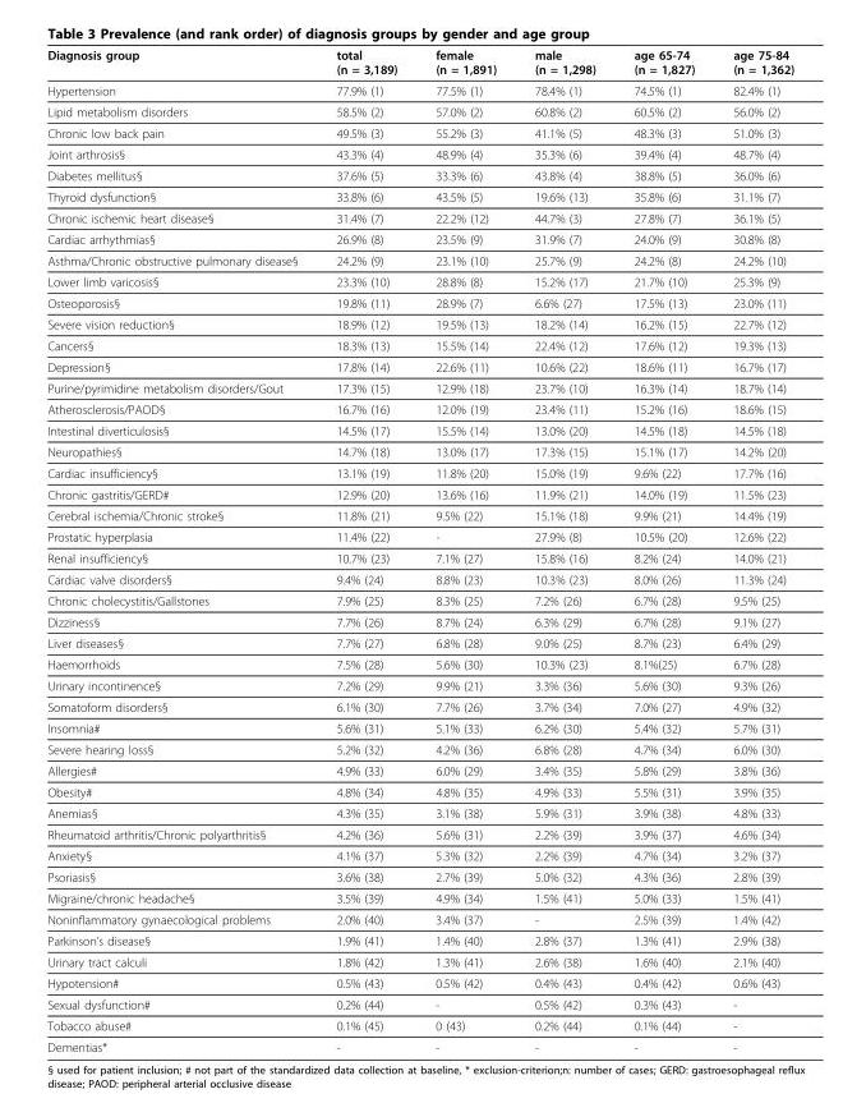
<table><thead><tr><td>Diagnosis group</td><td>total (n = 3,189)</td><td>female (n = 1,891)</td><td>male (n = 1,298)</td><td>age 65-74 (n = 1,827)</td><td>age 75-84 (n = 1,362)</td></tr></thead><tbody><tr><td>Hypertension</td><td>77.9% (1)</td><td>77.5% (1)</td><td>78.4% (1)</td><td>74.5% (1)</td><td>82.4% (1)</td></tr><tr><td>Lipid metabolism disorders</td><td>58.5% (2)</td><td>57.0% (2)</td><td>60.8% (2)</td><td>60.5% (2)</td><td>56.0% (2)</td></tr><tr><td>Chronic low back pain</td><td>49.5% (3)</td><td>55.2% (3)</td><td>41.1% (5)</td><td>48.3% (3)</td><td>51.0% (3)</td></tr><tr><td>Joint arthrosis§</td><td>43.3% (4)</td><td>48.9% (4)</td><td>35.3% (6)</td><td>39.4% (4)</td><td>48.7% (4)</td></tr><tr><td>Diabetes mellitus§</td><td>37.6% (5)</td><td>33.3% (6)</td><td>43.8% (4)</td><td>38.8% (5)</td><td>36.0% (6)</td></tr><tr><td>Thyroid dysfunction§</td><td>33.8% (6)</td><td>43.5% (5)</td><td>19.6% (13)</td><td>35.8% (6)</td><td>31.1% (7)</td></tr><tr><td>Chronic ischemic heart disease§</td><td>31.4% (7)</td><td>22.2% (12)</td><td>44.7% (3)</td><td>27.8% (7)</td><td>36.1% (5)</td></tr><tr><td>Cardiac arrhythmias§</td><td>26.9% (8)</td><td>23.5% (9)</td><td>31.9% (7)</td><td>24.0% (9)</td><td>30.8% (8)</td></tr><tr><td>Asthma/Chronic obstructive pulmonary disease§</td><td>24.2% (9)</td><td>23.1% (10)</td><td>25.7% (9)</td><td>24.2% (8)</td><td>24.2% (10)</td></tr><tr><td>Lower limb varicosis§</td><td>23.3% (10)</td><td>28.8% (8)</td><td>15.2% (17)</td><td>21.7% (10)</td><td>25.3% (9)</td></tr><tr><td>Osteoporosis§</td><td>19.8% (11)</td><td>28.9% (7)</td><td>6.6% (27)</td><td>17.5% (13)</td><td>23.0% (11)</td></tr><tr><td>Severe vision reduction§</td><td>18.9% (12)</td><td>19.5% (13)</td><td>18.2% (14)</td><td>16.2% (15)</td><td>22.7% (12)</td></tr><tr><td>Cancers§</td><td>18.3% (13)</td><td>15.5% (14)</td><td>22.4% (12)</td><td>17.6% (12)</td><td>19.3% (13)</td></tr><tr><td>Depression§</td><td>17.8% (14)</td><td>22.6% (11)</td><td>10.6% (22)</td><td>18.6% (11)</td><td>16.7% (17)</td></tr><tr><td>Purine/pyrimidine metabolism disorders/Gout</td><td>17.3% (15)</td><td>12.9% (18)</td><td>23.7% (10)</td><td>16.3% (14)</td><td>18.7% (14)</td></tr><tr><td>Atherosclerosis/PAOD§</td><td>16.7% (16)</td><td>12.0% (19)</td><td>23.4% (11)</td><td>15.2% (16)</td><td>18.6% (15)</td></tr><tr><td>Intestinal diverticulosis§</td><td>14.5% (17)</td><td>15.5% (14)</td><td>13.0% (20)</td><td>14.5% (18)</td><td>14.5% (18)</td></tr><tr><td>Neuropathies§</td><td>14.7% (18)</td><td>13.0% (17)</td><td>17.3% (15)</td><td>15.1% (17)</td><td>14.2% (20)</td></tr><tr><td>Cardiac insufficiency§</td><td>13.1% (19)</td><td>11.8% (20)</td><td>15.0% (19)</td><td>9.6% (22)</td><td>17.7% (16)</td></tr><tr><td>Chronic gastritis/GERD#</td><td>12.9% (20)</td><td>13.6% (16)</td><td>11.9% (21)</td><td>14.0% (19)</td><td>11.5% (23)</td></tr><tr><td>Cerebral ischemia/Chronic stroke§</td><td>11.8% (21)</td><td>9.5% (22)</td><td>15.1% (18)</td><td>9.9% (21)</td><td>14.4% (19)</td></tr><tr><td>Prostatic hyperplasia</td><td>11.4% (22)</td><td>-</td><td>27.9% (8)</td><td>10.5% (20)</td><td>12.6% (22)</td></tr><tr><td>Renal insufficiency§</td><td>10.7% (23)</td><td>7.1% (27)</td><td>15.8% (16)</td><td>8.2% (24)</td><td>14.0% (21)</td></tr><tr><td>Cardiac valve disorders§</td><td>9.4% (24)</td><td>8.8% (23)</td><td>10.3% (23)</td><td>8.0% (26)</td><td>11.3% (24)</td></tr><tr><td>Chronic cholecystitis/Gallstones</td><td>7.9% (25)</td><td>8.3% (25)</td><td>7.2% (26)</td><td>6.7% (28)</td><td>9.5% (25)</td></tr><tr><td>Dizziness§</td><td>7.7% (26)</td><td>8.7% (24)</td><td>6.3% (29)</td><td>6.7% (28)</td><td>9.1% (27)</td></tr><tr><td>Liver diseases§</td><td>7.7% (27)</td><td>6.8% (28)</td><td>9.0% (25)</td><td>8.7% (23)</td><td>6.4% (29)</td></tr><tr><td>Haemorrhoids</td><td>7.5% (28)</td><td>5.6% (30)</td><td>10.3% (23)</td><td>8.1%(25)</td><td>6.7% (28)</td></tr><tr><td>Urinary incontinence§</td><td>7.2% (29)</td><td>9.9% (21)</td><td>3.3% (36)</td><td>5.6% (30)</td><td>9.3% (26)</td></tr><tr><td>Somatoform disorders§</td><td>6.1% (30)</td><td>7.7% (26)</td><td>3.7% (34)</td><td>7.0% (27)</td><td>4.9% (32)</td></tr><tr><td>Insomnia#</td><td>5.6% (31)</td><td>5.1% (33)</td><td>6.2% (30)</td><td>5.4% (32)</td><td>5.7% (31)</td></tr><tr><td>Severe hearing loss§</td><td>5.2% (32)</td><td>4.2% (36)</td><td>6.8% (28)</td><td>4.7% (34)</td><td>6.0% (30)</td></tr><tr><td>Allergies#</td><td>4.9% (33)</td><td>6.0% (29)</td><td>3.4% (35)</td><td>5.8% (29)</td><td>3.8% (36)</td></tr><tr><td>Obesity#</td><td>4.8% (34)</td><td>4.8% (35)</td><td>4.9% (33)</td><td>5.5% (31)</td><td>3.9% (35)</td></tr><tr><td>Anemias§</td><td>4.3% (35)</td><td>3.1% (38)</td><td>5.9% (31)</td><td>3.9% (38)</td><td>4.8% (33)</td></tr><tr><td>Rheumatoid arthritis/Chronic polyarthritis§</td><td>4.2% (36)</td><td>5.6% (31)</td><td>2.2% (39)</td><td>3.9% (37)</td><td>4.6% (34)</td></tr><tr><td>Anxiety§</td><td>4.1% (37)</td><td>5.3% (32)</td><td>2.2% (39)</td><td>4.7% (34)</td><td>3.2% (37)</td></tr><tr><td>Psoriasis§</td><td>3.6% (38)</td><td>2.7% (39)</td><td>5.0% (32)</td><td>4.3% (36)</td><td>2.8% (39)</td></tr><tr><td>Migraine/chronic headache§</td><td>3.5% (39)</td><td>4.9% (34)</td><td>1.5% (41)</td><td>5.0% (33)</td><td>1.5% (41)</td></tr><tr><td>Noninflammatory gynaecological problems</td><td>2.0% (40)</td><td>3.4% (37)</td><td>-</td><td>2.5% (39)</td><td>1.4% (42)</td></tr><tr><td>Parkinson’s disease§</td><td>1.9% (41)</td><td>1.4% (40)</td><td>2.8% (37)</td><td>1.3% (41)</td><td>2.9% (38)</td></tr><tr><td>Urinary tract calculi</td><td>1.8% (42)</td><td>1.3% (41)</td><td>2.6% (38)</td><td>1.6% (40)</td><td>2.1% (40)</td></tr><tr><td>Hypotension#</td><td>0.5% (43)</td><td>0.5% (42)</td><td>0.4% (43)</td><td>0.4% (42)</td><td>0.6% (43)</td></tr><tr><td>Sexual dysfunction#</td><td>0.2% (44)</td><td>-</td><td>0.5% (42)</td><td>0.3% (43)</td><td>-</td></tr><tr><td>Tobacco abuse#</td><td>0.1% (45)</td><td>0 (43)</td><td>0.2% (44)</td><td>0.1% (44)</td><td>-</td></tr><tr><td>Dementias*</td><td>-</td><td>-</td><td>-</td><td>-</td><td>-</td></tr></tbody></table>